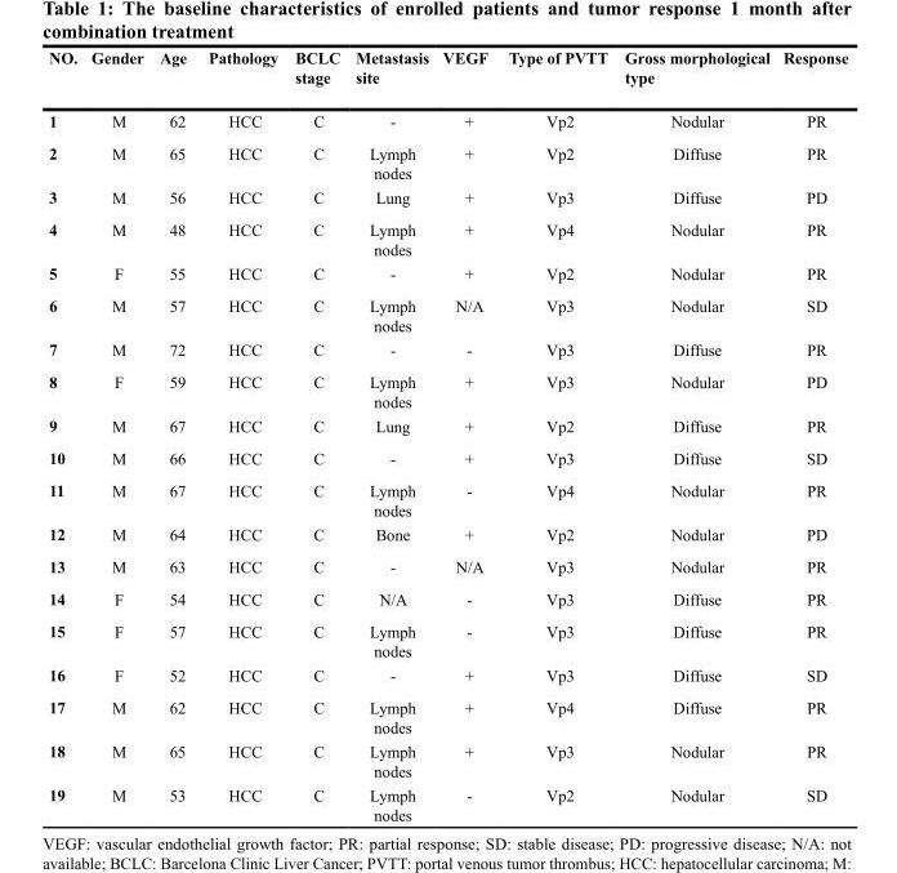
<table><thead><tr><td>NO.</td><td>Gender</td><td>Age</td><td>Pathology</td><td>BCLC stage</td><td>Metastasis site</td><td>VEGF</td><td>Type of PVTT</td><td>Gross morphological type</td><td>Response</td></tr></thead><tbody><tr><td>1</td><td>M</td><td>62</td><td>HCC</td><td>C</td><td>-</td><td>+</td><td>Vp2</td><td>Nodular</td><td>PR</td></tr><tr><td>2</td><td>M</td><td>65</td><td>HCC</td><td>C</td><td>Lymph nodes</td><td>+</td><td>Vp2</td><td>Diffuse</td><td>PR</td></tr><tr><td>3</td><td>M</td><td>56</td><td>HCC</td><td>C</td><td>Lung</td><td>+</td><td>Vp3</td><td>Diffuse</td><td>PD</td></tr><tr><td>4</td><td>M</td><td>48</td><td>HCC</td><td>C</td><td>Lymph nodes</td><td>+</td><td>Vp4</td><td>Nodular</td><td>PR</td></tr><tr><td>5</td><td>F</td><td>55</td><td>HCC</td><td>C</td><td>-</td><td>+</td><td>Vp2</td><td>Nodular</td><td>PR</td></tr><tr><td>6</td><td>M</td><td>57</td><td>HCC</td><td>C</td><td>Lymph nodes</td><td>N/A</td><td>Vp3</td><td>Nodular</td><td>SD</td></tr><tr><td>7</td><td>M</td><td>72</td><td>HCC</td><td>C</td><td>-</td><td>-</td><td>Vp3</td><td>Diffuse</td><td>PR</td></tr><tr><td>8</td><td>F</td><td>59</td><td>HCC</td><td>C</td><td>Lymph nodes</td><td>+</td><td>Vp3</td><td>Nodular</td><td>PD</td></tr><tr><td>9</td><td>M</td><td>67</td><td>HCC</td><td>C</td><td>Lung</td><td>+</td><td>Vp2</td><td>Diffuse</td><td>PR</td></tr><tr><td>10</td><td>M</td><td>66</td><td>HCC</td><td>C</td><td>-</td><td>+</td><td>Vp3</td><td>Diffuse</td><td>SD</td></tr><tr><td>11</td><td>M</td><td>67</td><td>HCC</td><td>C</td><td>Lymph nodes</td><td>-</td><td>Vp4</td><td>Nodular</td><td>PR</td></tr><tr><td>12</td><td>M</td><td>64</td><td>HCC</td><td>C</td><td>Bone</td><td>+</td><td>Vp2</td><td>Nodular</td><td>PD</td></tr><tr><td>13</td><td>M</td><td>63</td><td>HCC</td><td>C</td><td>-</td><td>N/A</td><td>Vp3</td><td>Nodular</td><td>PR</td></tr><tr><td>14</td><td>F</td><td>54</td><td>HCC</td><td>C</td><td>N/A</td><td>-</td><td>Vp3</td><td>Diffuse</td><td>PR</td></tr><tr><td>15</td><td>F</td><td>57</td><td>HCC</td><td>C</td><td>Lymph nodes</td><td>-</td><td>Vp3</td><td>Diffuse</td><td>PR</td></tr><tr><td>16</td><td>F</td><td>52</td><td>HCC</td><td>C</td><td>-</td><td>+</td><td>Vp3</td><td>Diffuse</td><td>SD</td></tr><tr><td>17</td><td>M</td><td>62</td><td>HCC</td><td>C</td><td>Lymph nodes</td><td>+</td><td>Vp4</td><td>Diffuse</td><td>PR</td></tr><tr><td>18</td><td>M</td><td>65</td><td>HCC</td><td>C</td><td>Lymph nodes</td><td>+</td><td>Vp3</td><td>Nodular</td><td>PR</td></tr><tr><td>19</td><td>M</td><td>53</td><td>HCC</td><td>C</td><td>Lymph nodes</td><td>-</td><td>Vp2</td><td>Nodular</td><td>SD</td></tr></tbody></table>